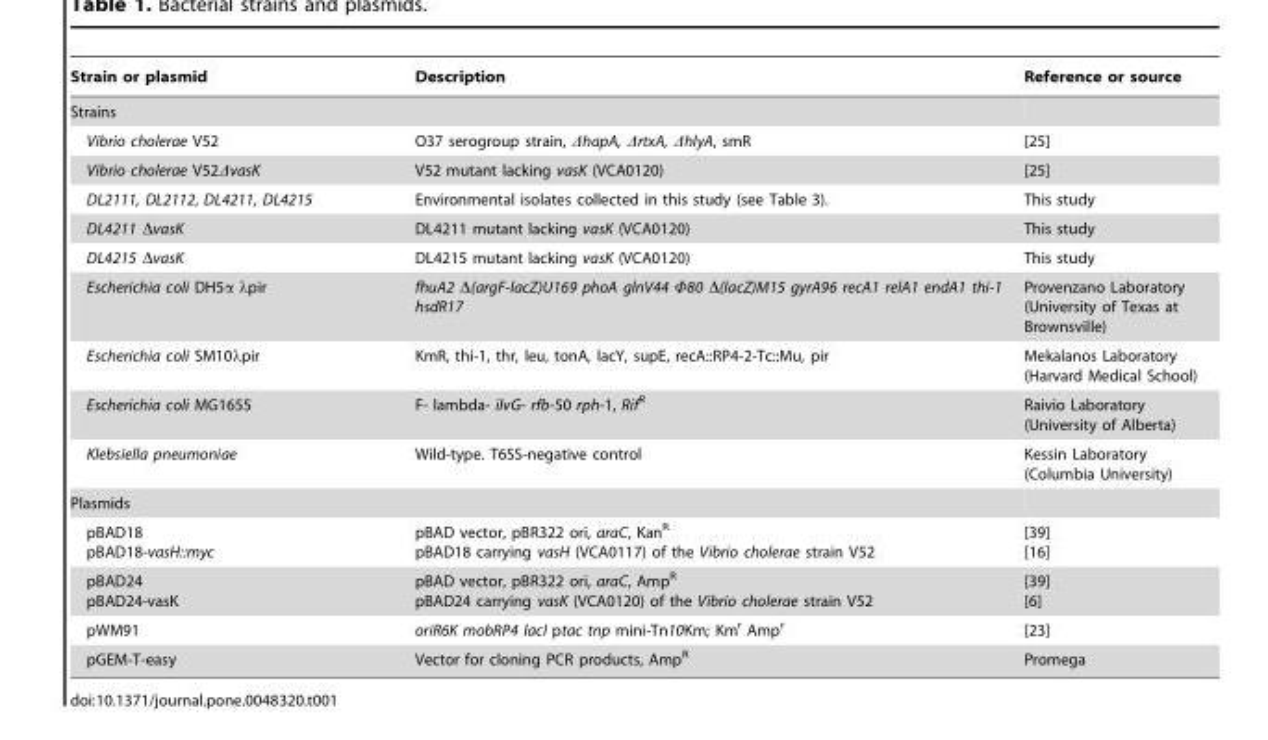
<table><thead><tr><td>Strain or plasmid</td><td>Description</td><td>Reference or source</td></tr></thead><tbody><tr><td colspan="3">Strains</td></tr><tr><td>Vibrio cholerae V52</td><td>O37 serogroup strain, ΔhapA, ΔrtxA, ΔhlyA, smR</td><td>[25]</td></tr><tr><td>Vibrio cholerae V52ΔvasK</td><td>V52 mutant lacking vasK (VCA0120)</td><td>[25]</td></tr><tr><td>DL2111, DL2112, DL4211, DL4215</td><td>Environmental isolates collected in this study (see Table 3).</td><td>This study</td></tr><tr><td>DL4211 ΔvasK</td><td>DL4211 mutant lacking vasK (VCA0120)</td><td>This study</td></tr><tr><td>DL4215 ΔvasK</td><td>DL4215 mutant lacking vasK (VCA0120)</td><td>This study</td></tr><tr><td>Escherichia coli DH5α λpir</td><td>fhuA2 Δ(argF-lacZ)U169 phoA glnV44 Φ80 Δ(lacZ)M15 gyrA96 recA1 relA1 endA1 thi-1 hsdR17</td><td>Provenzano Laboratory (University of Texas at Brownsville)</td></tr><tr><td>Escherichia coli SM10λpir</td><td>KmR, thi-1, thr, leu, tonA, lacY, supE, recA::RP4-2-Tc::Mu, pir</td><td>Mekalanos Laboratory (Harvard Medical School)</td></tr><tr><td>Escherichia coli MG1655</td><td>F- lambda- ilvG- rfb-50 rph-1, Rif<sup>R</sup></td><td>Raivio Laboratory (University of Alberta)</td></tr><tr><td>Klebsiella pneumoniae</td><td>Wild-type. T6SS-negative control</td><td>Kessin Laboratory (Columbia University)</td></tr><tr><td colspan="3">Plasmids</td></tr><tr><td>pBAD18 pBAD18-vasH::myc</td><td>pBAD vector, pBR322 ori, araC, Kan<sup>R</sup> pBAD18 carrying vasH (VCA0117) of the Vibrio cholerae strain V52</td><td>[39] [16]</td></tr><tr><td>pBAD24 pBAD24-vasK</td><td>pBAD vector, pBR322 ori, araC, Amp<sup>R</sup> pBAD24 carrying vasK (VCA0120) of the Vibrio cholerae strain V52</td><td>[39] [6]</td></tr><tr><td>pWM91</td><td>oriR6K mobRP4 lacI ptac tnp mini-Tn10Km; Km<sup>r</sup> Amp<sup>r</sup></td><td>[23]</td></tr><tr><td>pGEM-T-easy</td><td>Vector for cloning PCR products, Amp<sup>R</sup></td><td>Promega</td></tr></tbody></table>